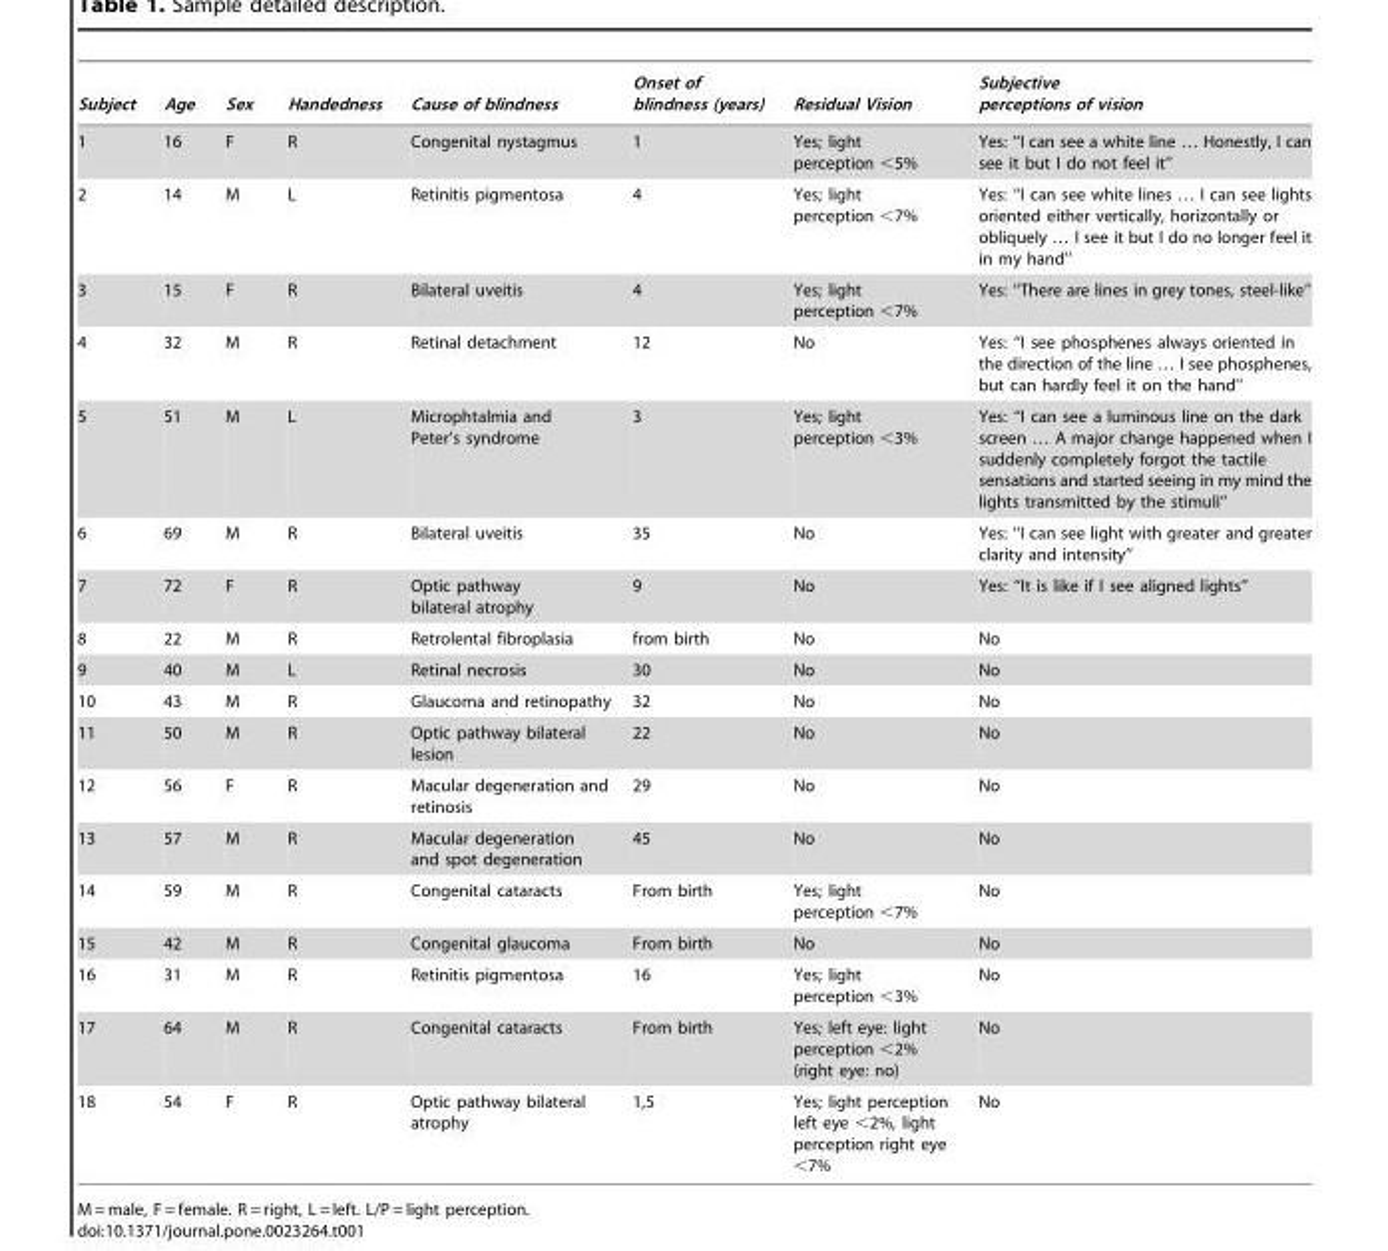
<table><thead><tr><td>Subject</td><td>Age</td><td>Sex</td><td>Handedness</td><td>Cause of blindness</td><td>Onset of blindness (years)</td><td>Residual Vision</td><td>Subjective perceptions of vision</td></tr></thead><tbody><tr><td>1</td><td>16</td><td>F</td><td>R</td><td>Congenital nystagmus</td><td>1</td><td>Yes; light perception &lt;5%</td><td>Yes: ‘‘I can see a white line … Honestly, I can see it but I do not feel it’’</td></tr><tr><td>2</td><td>14</td><td>M</td><td>L</td><td>Retinitis pigmentosa</td><td>4</td><td>Yes; light perception &lt;7%</td><td>Yes: ‘‘I can see white lines … I can see lights oriented either vertically, horizontally or obliquely … I see it but I do no longer feel it in my hand’’</td></tr><tr><td>3</td><td>15</td><td>F</td><td>R</td><td>Bilateral uveitis</td><td>4</td><td>Yes; light perception &lt;7%</td><td>Yes: ‘‘There are lines in grey tones, steel-like’’</td></tr><tr><td>4</td><td>32</td><td>M</td><td>R</td><td>Retinal detachment</td><td>12</td><td>No</td><td>Yes: ‘‘I see phosphenes always oriented in the direction of the line … I see phosphenes, but can hardly feel it on the hand’’</td></tr><tr><td>5</td><td>51</td><td>M</td><td>L</td><td>Microphtalmia and Peter’s syndrome</td><td>3</td><td>Yes; light perception &lt;3%</td><td>Yes: ‘‘I can see a luminous line on the dark screen … A major change happened when I suddenly completely forgot the tactile sensations and started seeing in my mind the lights transmitted by the stimuli’’</td></tr><tr><td>6</td><td>69</td><td>M</td><td>R</td><td>Bilateral uveitis</td><td>35</td><td>No</td><td>Yes: ‘‘I can see light with greater and greater clarity and intensity’’</td></tr><tr><td>7</td><td>72</td><td>F</td><td>R</td><td>Optic pathway bilateral atrophy</td><td>9</td><td>No</td><td>Yes: ‘‘It is like if I see aligned lights’’</td></tr><tr><td>8</td><td>22</td><td>M</td><td>R</td><td>Retrolental fibroplasia</td><td>from birth</td><td>No</td><td>No</td></tr><tr><td>9</td><td>40</td><td>M</td><td>L</td><td>Retinal necrosis</td><td>30</td><td>No</td><td>No</td></tr><tr><td>10</td><td>43</td><td>M</td><td>R</td><td>Glaucoma and retinopathy</td><td>32</td><td>No</td><td>No</td></tr><tr><td>11</td><td>50</td><td>M</td><td>R</td><td>Optic pathway bilateral lesion</td><td>22</td><td>No</td><td>No</td></tr><tr><td>12</td><td>56</td><td>F</td><td>R</td><td>Macular degeneration and retinosis</td><td>29</td><td>No</td><td>No</td></tr><tr><td>13</td><td>57</td><td>M</td><td>R</td><td>Macular degeneration and spot degeneration</td><td>45</td><td>No</td><td>No</td></tr><tr><td>14</td><td>59</td><td>M</td><td>R</td><td>Congenital cataracts</td><td>From birth</td><td>Yes; light perception &lt;7%</td><td>No</td></tr><tr><td>15</td><td>42</td><td>M</td><td>R</td><td>Congenital glaucoma</td><td>From birth</td><td>No</td><td>No</td></tr><tr><td>16</td><td>31</td><td>M</td><td>R</td><td>Retinitis pigmentosa</td><td>16</td><td>Yes; light perception &lt;3%</td><td>No</td></tr><tr><td>17</td><td>64</td><td>M</td><td>R</td><td>Congenital cataracts</td><td>From birth</td><td>Yes; left eye: light perception &lt;2% (right eye: no)</td><td>No</td></tr><tr><td>18</td><td>54</td><td>F</td><td>R</td><td>Optic pathway bilateral atrophy</td><td>1,5</td><td>Yes; light perception left eye &lt;2%, light perception right eye &lt;7%</td><td>No</td></tr></tbody></table>